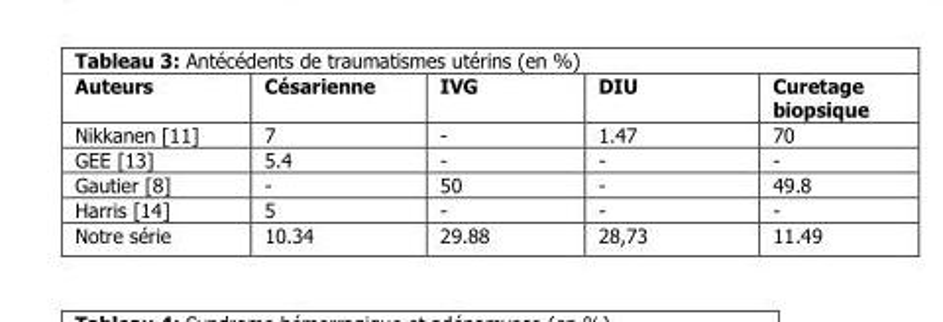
<table><thead><tr><td>Auteurs</td><td>Césarienne</td><td>IVG</td><td>DIU</td><td>Curetage biopsique</td></tr></thead><tbody><tr><td>Nikkanen [11]</td><td>7</td><td>-</td><td>1.47</td><td>70</td></tr><tr><td>GEE [13]</td><td>5.4</td><td>-</td><td>-</td><td>-</td></tr><tr><td>Gautier [8]</td><td>-</td><td>50</td><td>-</td><td>49.8</td></tr><tr><td>Harris [14]</td><td>5</td><td>-</td><td>-</td><td>-</td></tr><tr><td>Notre série</td><td>10.34</td><td>29.88</td><td>28,73</td><td>11.49</td></tr></tbody></table>